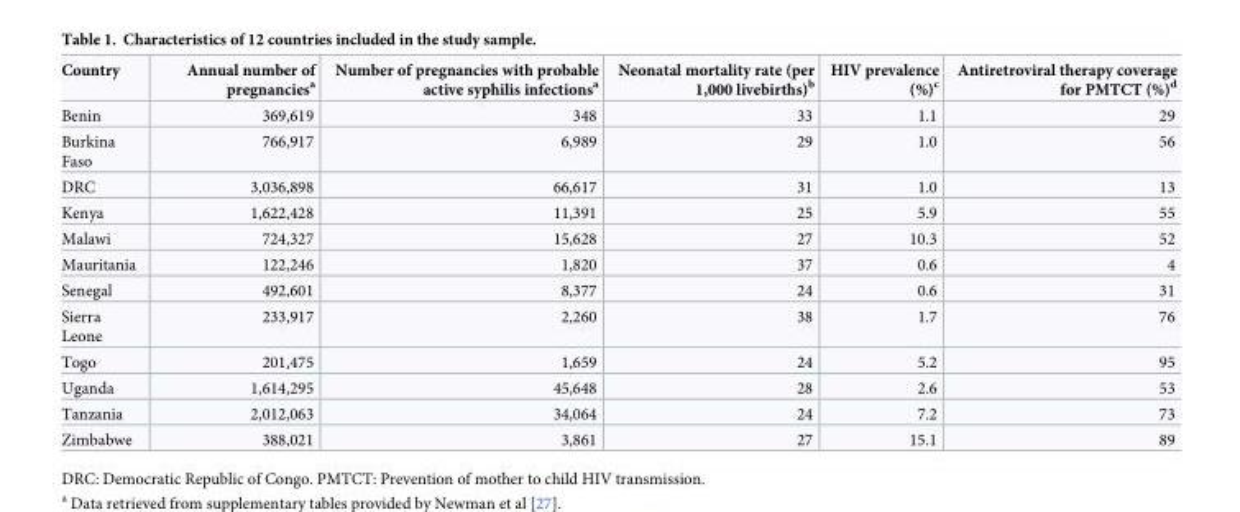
<table><thead><tr><td>Country</td><td>Annual number of pregnancies<sup>a</sup></td><td>Number of pregnancies with probable active syphilis infections<sup>a</sup></td><td>Neonatal mortality rate (per 1,000 livebirths)<sup>b</sup></td><td>HIV prevalence (%)<sup>c</sup></td><td>Antiretroviral therapy coverage for PMTCT (%)<sup>d</sup></td></tr></thead><tbody><tr><td>Benin</td><td>369,619</td><td>348</td><td>33</td><td>1.1</td><td>29</td></tr><tr><td>Burkina Faso</td><td>766,917</td><td>6,989</td><td>29</td><td>1.0</td><td>56</td></tr><tr><td>DRC</td><td>3,036,898</td><td>66,617</td><td>31</td><td>1.0</td><td>13</td></tr><tr><td>Kenya</td><td>1,622,428</td><td>11,391</td><td>25</td><td>5.9</td><td>55</td></tr><tr><td>Malawi</td><td>724,327</td><td>15,628</td><td>27</td><td>10.3</td><td>52</td></tr><tr><td>Mauritania</td><td>122,246</td><td>1,820</td><td>37</td><td>0.6</td><td>4</td></tr><tr><td>Senegal</td><td>492,601</td><td>8,377</td><td>24</td><td>0.6</td><td>31</td></tr><tr><td>Sierra Leone</td><td>233,917</td><td>2,260</td><td>38</td><td>1.7</td><td>76</td></tr><tr><td>Togo</td><td>201,475</td><td>1,659</td><td>24</td><td>5.2</td><td>95</td></tr><tr><td>Uganda</td><td>1,614,295</td><td>45,648</td><td>28</td><td>2.6</td><td>53</td></tr><tr><td>Tanzania</td><td>2,012,063</td><td>34,064</td><td>24</td><td>7.2</td><td>73</td></tr><tr><td>Zimbabwe</td><td>388,021</td><td>3,861</td><td>27</td><td>15.1</td><td>89</td></tr></tbody></table>